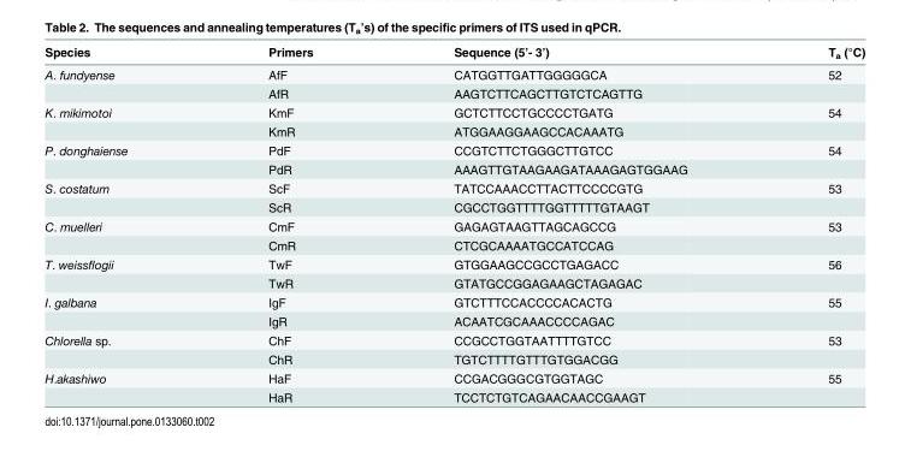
<table><thead><tr><td>Species</td><td>Primers</td><td>Sequence (5’- 3’)</td><td>T<sub>a</sub> (°C)</td></tr></thead><tbody><tr><td rowspan="2">A. fundyense</td><td>AfF</td><td>CATGGTTGATTGGGGGCA</td><td>52</td></tr><tr><td>AfR</td><td>AAGTCTTCAGCTTGTCTCAGTTG</td><td></td></tr><tr><td rowspan="2">K. mikimotoi</td><td>KmF</td><td>GCTCTTCCTGCCCCTGATG</td><td>54</td></tr><tr><td>KmR</td><td>ATGGAAGGAAGCCACAAATG</td><td></td></tr><tr><td rowspan="2">P. donghaiense</td><td>PdF</td><td>CCGTCTTCTGGGCTTGTCC</td><td>54</td></tr><tr><td>PdR</td><td>AAAGTTGTAAGAAGATAAAGAGTGGAAG</td><td></td></tr><tr><td rowspan="2">S. costatum</td><td>ScF</td><td>TATCCAAACCTTACTTCCCCGTG</td><td>53</td></tr><tr><td>ScR</td><td>CGCCTGGTTTTGGTTTTTGTAAGT</td><td></td></tr><tr><td rowspan="2">C. muelleri</td><td>CmF</td><td>GAGAGTAAGTTAGCAGCCG</td><td>53</td></tr><tr><td>CmR</td><td>CTCGCAAAATGCCATCCAG</td><td></td></tr><tr><td rowspan="2">T. weissflogii</td><td>TwF</td><td>GTGGAAGCCGCCTGAGACC</td><td>56</td></tr><tr><td>TwR</td><td>GTATGCCGGAGAAGCTAGAGAC</td><td></td></tr><tr><td rowspan="2">I. galbana</td><td>IgF</td><td>GTCTTTCCACCCCACACTG</td><td>55</td></tr><tr><td>IgR</td><td>ACAATCGCAAACCCCAGAC</td><td></td></tr><tr><td rowspan="2">Chlorella sp.</td><td>ChF</td><td>CCGCCTGGTAATTTTGTCC</td><td>53</td></tr><tr><td>ChR</td><td>TGTCTTTTGTTTGTGGACGG</td><td></td></tr><tr><td rowspan="2">H.akashiwo</td><td>HaF</td><td>CCGACGGGCGTGGTAGC</td><td>55</td></tr><tr><td>HaR</td><td>TCCTCTGTCAGAACAACCGAAGT</td><td></td></tr></tbody></table>